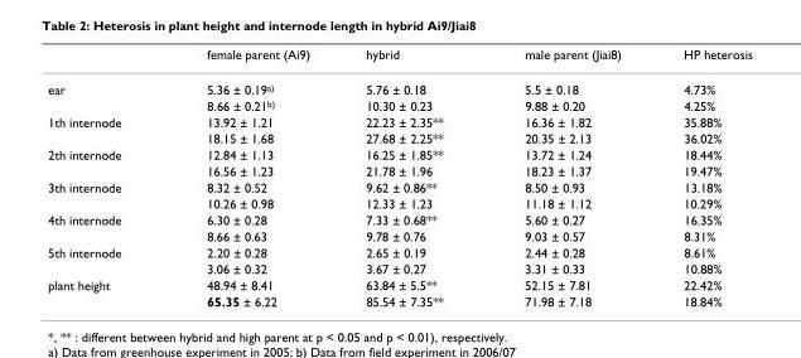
<table><thead><tr><td></td><td>female parent (Ai9)</td><td>hybrid</td><td>male parent (Jiai8)</td><td>HP heterosis</td></tr></thead><tbody><tr><td rowspan="2">ear</td><td>5.36 ± 0.19<sup>a)</sup></td><td>5.76 ± 0.18</td><td>5.5 ± 0.18</td><td>4.73%</td></tr><tr><td>8.66 ± 0.21<sup>b)</sup></td><td>10.30 ± 0.23</td><td>9.88 ± 0.20</td><td>4.25%</td></tr><tr><td rowspan="2">1th internode</td><td>13.92 ± 1.21</td><td>22.23 ± 2.35**</td><td>16.36 ± 1.82</td><td>35.88%</td></tr><tr><td>18.15 ± 1.68</td><td>27.68 ± 2.25**</td><td>20.35 ± 2.13</td><td>36.02%</td></tr><tr><td rowspan="2">2th internode</td><td>12.84 ± 1.13</td><td>16.25 ± 1.85**</td><td>13.72 ± 1.24</td><td>18.44%</td></tr><tr><td>16.56 ± 1.23</td><td>21.78 ± 1.96</td><td>18.23 ± 1.37</td><td>19.47%</td></tr><tr><td rowspan="2">3th internode</td><td>8.32 ± 0.52</td><td>9.62 ± 0.86**</td><td>8.50 ± 0.93</td><td>13.18%</td></tr><tr><td>10.26 ± 0.98</td><td>12.33 ± 1.23</td><td>11.18 ± 1.12</td><td>10.29%</td></tr><tr><td rowspan="2">4th internode</td><td>6.30 ± 0.28</td><td>7.33 ± 0.68**</td><td>5.60 ± 0.27</td><td>16.35%</td></tr><tr><td>8.66 ± 0.63</td><td>9.78 ± 0.76</td><td>9.03 ± 0.57</td><td>8.31%</td></tr><tr><td rowspan="2">5th internode</td><td>2.20 ± 0.28</td><td>2.65 ± 0.19</td><td>2.44 ± 0.28</td><td>8.61%</td></tr><tr><td>3.06 ± 0.32</td><td>3.67 ± 0.27</td><td>3.31 ± 0.33</td><td>10.88%</td></tr><tr><td rowspan="2">plant height</td><td>48.94 ± 8.41</td><td>63.84 ± 5.5**</td><td>52.15 ± 7.81</td><td>22.42%</td></tr><tr><td>65.35 ± 6.22</td><td>85.54 ± 7.35**</td><td>71.98 ± 7.18</td><td>18.84%</td></tr></tbody></table>